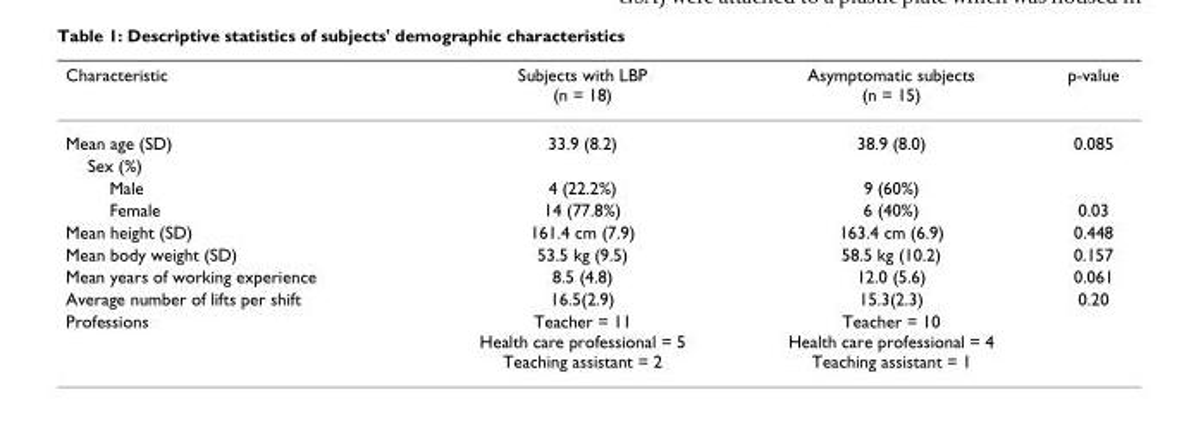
<table><thead><tr><td>Characteristic</td><td>Subjects with LBP (n = 18)</td><td>Asymptomatic subjects (n = 15)</td><td>p-value</td></tr></thead><tbody><tr><td>Mean age (SD)</td><td>33.9 (8.2)</td><td>38.9 (8.0)</td><td>0.085</td></tr><tr><td colspan="4">Sex (%)</td></tr><tr><td>Male</td><td>4 (22.2%)</td><td>9 (60%)</td><td></td></tr><tr><td>Female</td><td>14 (77.8%)</td><td>6 (40%)</td><td>0.03</td></tr><tr><td>Mean height (SD)</td><td>161.4 cm (7.9)</td><td>163.4 cm (6.9)</td><td>0.448</td></tr><tr><td>Mean body weight (SD)</td><td>53.5 kg (9.5)</td><td>58.5 kg (10.2)</td><td>0.157</td></tr><tr><td>Mean years of working experience</td><td>8.5 (4.8)</td><td>12.0 (5.6)</td><td>0.061</td></tr><tr><td>Average number of lifts per shift</td><td>16.5(2.9)</td><td>15.3(2.3)</td><td>0.20</td></tr><tr><td>Professions</td><td>Teacher = 11 Health care professional = 5 Teaching assistant = 2</td><td>Teacher = 10 Health care professional = 4 Teaching assistant = 1</td><td></td></tr></tbody></table>